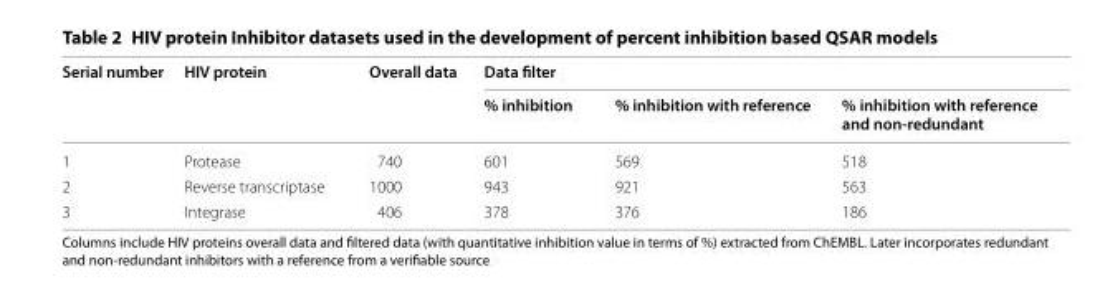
<table><thead><tr><td rowspan="2">Serial number</td><td rowspan="2">HIV protein</td><td rowspan="2">Overall data</td><td colspan="3">Data filter</td></tr><tr><td>% inhibition</td><td>% inhibition with reference</td><td>% inhibition with reference and non-redundant</td></tr></thead><tbody><tr><td>1</td><td>Protease</td><td>740</td><td>601</td><td>569</td><td>518</td></tr><tr><td>2</td><td>Reverse transcriptase</td><td>1000</td><td>943</td><td>921</td><td>563</td></tr><tr><td>3</td><td>Integrase</td><td>406</td><td>378</td><td>376</td><td>186</td></tr></tbody></table>